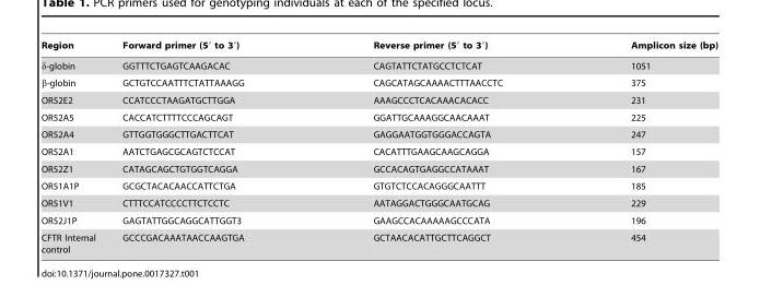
<table><thead><tr><td>Region</td><td>Forward primer (5′ to 3′)</td><td>Reverse primer (5′ to 3′)</td><td>Amplicon size (bp)</td></tr></thead><tbody><tr><td>δ-globin</td><td>GGTTTCTGAGTCAAGACAC</td><td>CAGTATTCTATGCCTCTCAT</td><td>1051</td></tr><tr><td>β-globin</td><td>GCTGTCCAATTTCTATTAAAGG</td><td>CAGCATAGCAAAACTTTAACCTC</td><td>375</td></tr><tr><td>OR52E2</td><td>CCATCCCTAAGATGCTTGGA</td><td>AAAGCCCTCACAAACACACC</td><td>231</td></tr><tr><td>OR52A5</td><td>CACCATCTTTTCCCAGCAGT</td><td>GGATTGCAAAGGCAACAAAT</td><td>225</td></tr><tr><td>OR52A4</td><td>GTTGGTGGGCTTGACTTCAT</td><td>GAGGAATGGTGGGACCAGTA</td><td>247</td></tr><tr><td>OR52A1</td><td>AATCTGAGCGCAGTCTCCAT</td><td>CACATTTGAAGCAAGCAGGA</td><td>157</td></tr><tr><td>OR52Z1</td><td>CATAGCAGCTGTGGTCAGGA</td><td>GCCACAGTGAGGCCATAAAT</td><td>167</td></tr><tr><td>OR51A1P</td><td>GCGCTACACAACCATTCTGA</td><td>GTGTCTCCACAGGGCAATTT</td><td>185</td></tr><tr><td>OR51V1</td><td>CTTTCCATCCCCTTCTCCTC</td><td>AATAGGACTGGGCAATGCAG</td><td>229</td></tr><tr><td>OR52J1P</td><td>GAGTATTGGCAGGCATTGGT3</td><td>GAAGCCACAAAAAGCCCATA</td><td>196</td></tr><tr><td>CFTR Internal control</td><td>GCCCGACAAATAACCAAGTGA</td><td>GCTAACACATTGCTTCAGGCT</td><td>454</td></tr></tbody></table>